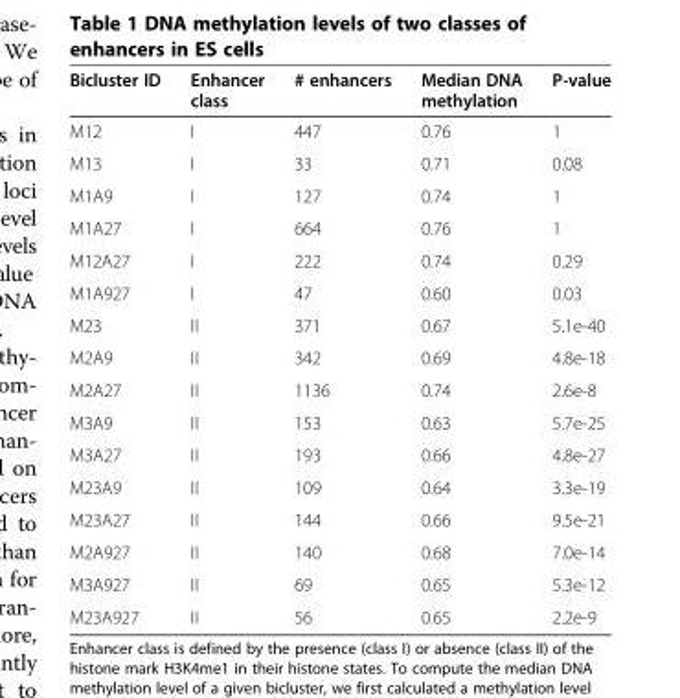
<table><thead><tr><td>Bicluster ID</td><td>Enhancer class</td><td># enhancers</td><td>Median DNA methylation</td><td>P-value</td></tr></thead><tbody><tr><td>M12</td><td>I</td><td>447</td><td>0.76</td><td>1</td></tr><tr><td>M13</td><td>I</td><td>33</td><td>0.71</td><td>0.08</td></tr><tr><td>M1A9</td><td>I</td><td>127</td><td>0.74</td><td>1</td></tr><tr><td>M1A27</td><td>I</td><td>664</td><td>0.76</td><td>1</td></tr><tr><td>M12A27</td><td>I</td><td>222</td><td>0.74</td><td>0.29</td></tr><tr><td>M1A927</td><td>I</td><td>47</td><td>0.60</td><td>0.03</td></tr><tr><td>M23</td><td>II</td><td>371</td><td>0.67</td><td>5.1e-40</td></tr><tr><td>M2A9</td><td>II</td><td>342</td><td>0.69</td><td>4.8e-18</td></tr><tr><td>M2A27</td><td>II</td><td>1136</td><td>0.74</td><td>2.6e-8</td></tr><tr><td>M3A9</td><td>II</td><td>153</td><td>0.63</td><td>5.7e-25</td></tr><tr><td>M3A27</td><td>II</td><td>193</td><td>0.66</td><td>4.8e-27</td></tr><tr><td>M23A9</td><td>II</td><td>109</td><td>0.64</td><td>3.3e-19</td></tr><tr><td>M23A27</td><td>II</td><td>144</td><td>0.66</td><td>9.5e-21</td></tr><tr><td>M2A927</td><td>II</td><td>140</td><td>0.68</td><td>7.0e-14</td></tr><tr><td>M3A927</td><td>II</td><td>69</td><td>0.65</td><td>5.3e-12</td></tr><tr><td>M23A927</td><td>II</td><td>56</td><td>0.65</td><td>2.2e-9</td></tr></tbody></table>